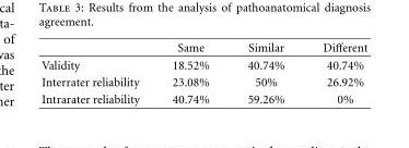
<table><thead><tr><td></td><td>Same</td><td>Similar</td><td>Different</td></tr></thead><tbody><tr><td>Validity</td><td>18.52%</td><td>40.74%</td><td>40.74%</td></tr><tr><td>Interrater reliability</td><td>23.08%</td><td>50%</td><td>26.92%</td></tr><tr><td>Intrarater reliability</td><td>40.74%</td><td>59.26%</td><td>0%</td></tr></tbody></table>